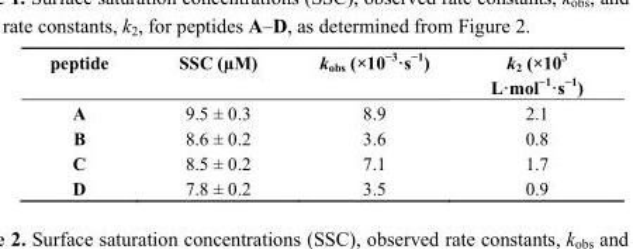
<table><thead><tr><td>peptide</td><td>SSC (µM)</td><td>k<sub>obs</sub> (×10<sup>−3</sup>·s<sup>−1</sup>)</td><td>k<sub>2</sub> (×10<sup>3</sup> L·mol<sup>−1</sup>·s<sup>−1</sup>)</td></tr></thead><tbody><tr><td>A</td><td>9.5 ± 0.3</td><td>8.9</td><td>2.1</td></tr><tr><td>B</td><td>8.6 ± 0.2</td><td>3.6</td><td>0.8</td></tr><tr><td>C</td><td>8.5 ± 0.2</td><td>7.1</td><td>1.7</td></tr><tr><td>D</td><td>7.8 ± 0.2</td><td>3.5</td><td>0.9</td></tr></tbody></table>